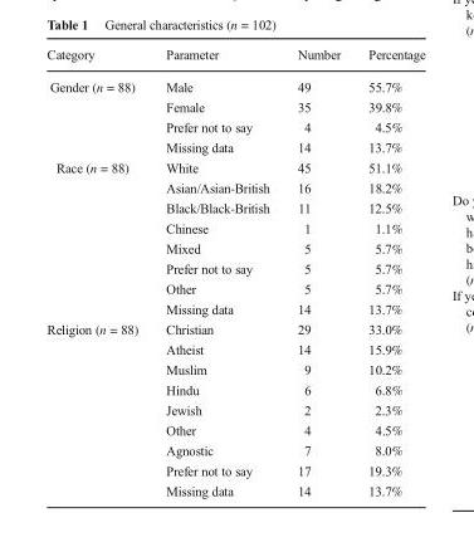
<table><thead><tr><td>Category</td><td>Parameter</td><td>Number</td><td>Percentage</td></tr></thead><tbody><tr><td rowspan="4">Gender (n = 88)</td><td>Male</td><td>49</td><td>55.7%</td></tr><tr><td>Female</td><td>35</td><td>39.8%</td></tr><tr><td>Prefer not to say</td><td>4</td><td>4.5%</td></tr><tr><td>Missing data</td><td>14</td><td>13.7%</td></tr><tr><td rowspan="8">Race (n = 88)</td><td>White</td><td>45</td><td>51.1%</td></tr><tr><td>Asian/Asian-British</td><td>16</td><td>18.2%</td></tr><tr><td>Black/Black-British</td><td>11</td><td>12.5%</td></tr><tr><td>Chinese</td><td>1</td><td>1.1%</td></tr><tr><td>Mixed</td><td>5</td><td>5.7%</td></tr><tr><td>Prefer not to say</td><td>5</td><td>5.7%</td></tr><tr><td>Other</td><td>5</td><td>5.7%</td></tr><tr><td>Missing data</td><td>14</td><td>13.7%</td></tr><tr><td rowspan="9">Religion (n = 88)</td><td>Christian</td><td>29</td><td>33.0%</td></tr><tr><td>Atheist</td><td>14</td><td>15.9%</td></tr><tr><td>Muslim</td><td>9</td><td>10.2%</td></tr><tr><td>Hindu</td><td>6</td><td>6.8%</td></tr><tr><td>Jewish</td><td>2</td><td>2.3%</td></tr><tr><td>Other</td><td>4</td><td>4.5%</td></tr><tr><td>Agnostic</td><td>7</td><td>8.0%</td></tr><tr><td>Prefer not to say</td><td>17</td><td>19.3%</td></tr><tr><td>Missing data</td><td>14</td><td>13.7%</td></tr></tbody></table>